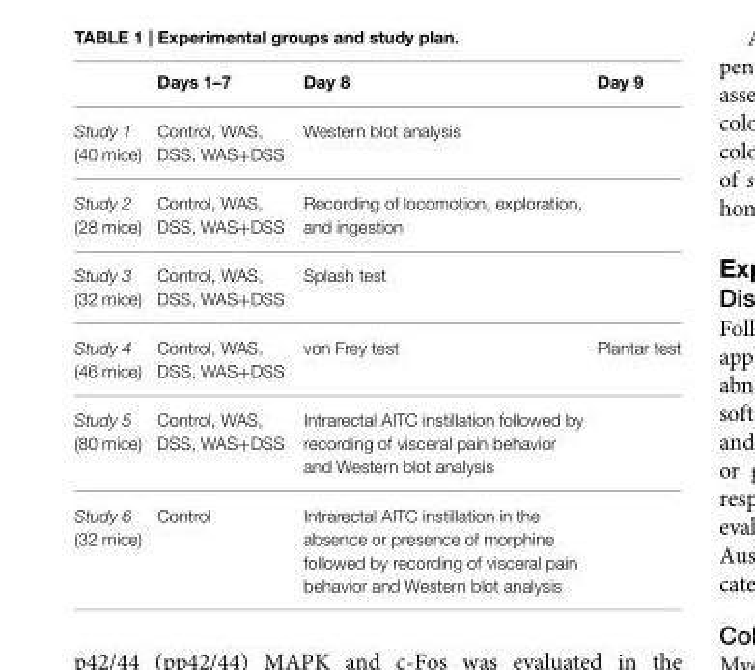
<table><thead><tr><td></td><td>Days 1–7</td><td>Day 8</td><td>Day 9</td></tr></thead><tbody><tr><td>Study 1 (40 mice)</td><td>Control, WAS, DSS, WAS+DSS</td><td>Western blot analysis</td><td></td></tr><tr><td>Study 2 (28 mice)</td><td>Control, WAS, DSS, WAS+DSS</td><td>Recording of locomotion, exploration, and ingestion</td><td></td></tr><tr><td>Study 3 (32 mice)</td><td>Control, WAS, DSS, WAS+DSS</td><td>Splash test</td><td></td></tr><tr><td>Study 4 (46 mice)</td><td>Control, WAS, DSS, WAS+DSS</td><td>von Frey test</td><td>Plantar test</td></tr><tr><td>Study 5 (80 mice)</td><td>Control, WAS, DSS, WAS+DSS</td><td>Intrarectal AITC instillation followed by recording of visceral pain behavior and Western blot analysis</td><td></td></tr><tr><td>Study 6 (32 mice)</td><td>Control</td><td>Intrarectal AITC instillation in the absence or presence of morphine followed by recording of visceral pain behavior and Western blot analysis</td><td></td></tr></tbody></table>